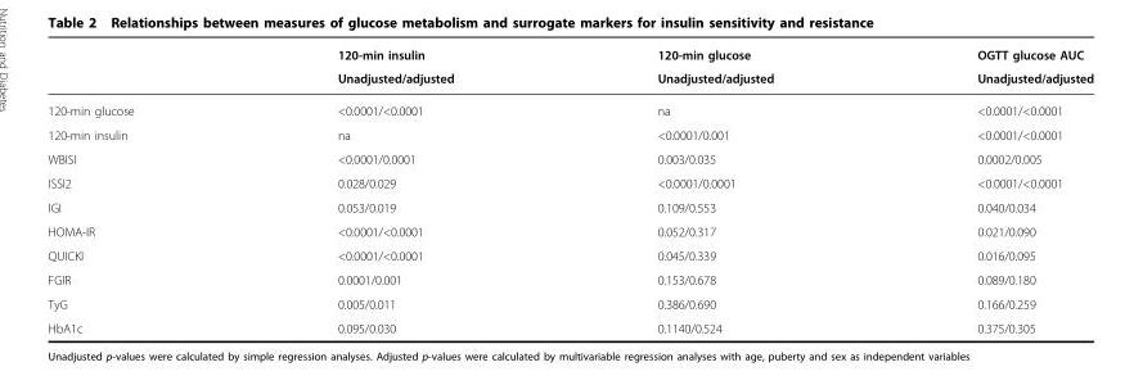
<table><thead><tr><td rowspan="2"></td><td rowspan="2">120-min insulin Unadjusted/adjusted</td><td rowspan="2">120-min glucose Unadjusted/adjusted</td><td rowspan="2">OGTT glucose AUC Unadjusted/adjusted</td></tr><tr></tr></thead><tbody><tr><td>120-min glucose</td><td>&lt;0.0001/&lt;0.0001</td><td>na</td><td>&lt;0.0001/&lt;0.0001</td></tr><tr><td>120-min insulin</td><td>na</td><td>&lt;0.0001/0.001</td><td>&lt;0.0001/&lt;0.0001</td></tr><tr><td>WBISI</td><td>&lt;0.0001/0.0001</td><td>0.003/0.035</td><td>0.0002/0.005</td></tr><tr><td>ISSI2</td><td>0.028/0.029</td><td>&lt;0.0001/0.0001</td><td>&lt;0.0001/&lt;0.0001</td></tr><tr><td>IGI</td><td>0.053/0.019</td><td>0.109/0.553</td><td>0.040/0.034</td></tr><tr><td>HOMA-IR</td><td>&lt;0.0001/&lt;0.0001</td><td>0.052/0.317</td><td>0.021/0.090</td></tr><tr><td>QUICKI</td><td>&lt;0.0001/&lt;0.0001</td><td>0.045/0.339</td><td>0.016/0.095</td></tr><tr><td>FGIR</td><td>0.0001/0.001</td><td>0.153/0.678</td><td>0.089/0.180</td></tr><tr><td>TyG</td><td>0.005/0.011</td><td>0.386/0.690</td><td>0.166/0.259</td></tr><tr><td>HbA1c</td><td>0.095/0.030</td><td>0.1140/0.524</td><td>0.375/0.305</td></tr></tbody></table>